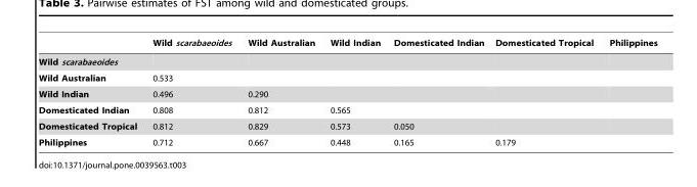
<table><thead><tr><td></td><td>Wild scarabaeoides</td><td>Wild Australian</td><td>Wild Indian</td><td>Domesticated Indian</td><td>Domesticated Tropical</td><td>Philippines</td></tr></thead><tbody><tr><td colspan="7">Wild scarabaeoides</td></tr><tr><td>Wild Australian</td><td>0.533</td><td></td><td></td><td></td><td></td><td></td></tr><tr><td>Wild Indian</td><td>0.496</td><td>0.290</td><td></td><td></td><td></td><td></td></tr><tr><td>Domesticated Indian</td><td>0.808</td><td>0.812</td><td>0.565</td><td></td><td></td><td></td></tr><tr><td>Domesticated Tropical</td><td>0.812</td><td>0.829</td><td>0.573</td><td>0.050</td><td></td><td></td></tr><tr><td>Philippines</td><td>0.712</td><td>0.667</td><td>0.448</td><td>0.165</td><td>0.179</td><td></td></tr></tbody></table>